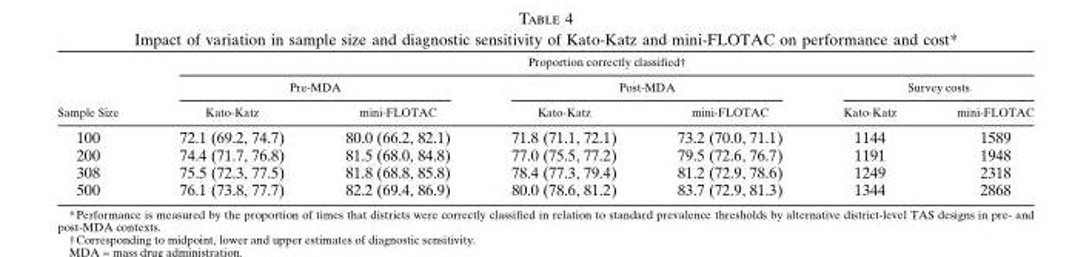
<table><thead><tr><td rowspan="3">Sample Size</td><td colspan="6">Proportion correctly classified†</td></tr><tr><td colspan="2">Pre-MDA</td><td colspan="2">Post-MDA</td><td colspan="2">Survey costs</td></tr><tr><td>Kato-Katz</td><td>mini-FLOTAC</td><td>Kato-Katz</td><td>mini-FLOTAC</td><td>Kato-Katz</td><td>mini-FLOTAC</td></tr></thead><tbody><tr><td>100</td><td>72.1 (69.2, 74.7)</td><td>80.0 (66.2, 82.1)</td><td>71.8 (71.1, 72.1)</td><td>73.2 (70.0, 71.1)</td><td>1144</td><td>1589</td></tr><tr><td>200</td><td>74.4 (71.7, 76.8)</td><td>81.5 (68.0, 84.8)</td><td>77.0 (75.5, 77.2)</td><td>79.5 (72.6, 76.7)</td><td>1191</td><td>1948</td></tr><tr><td>308</td><td>75.5 (72.3, 77.5)</td><td>81.8 (68.8, 85.8)</td><td>78.4 (77.3, 79.4)</td><td>81.2 (72.9, 78.6)</td><td>1249</td><td>2318</td></tr><tr><td>500</td><td>76.1 (73.8, 77.7)</td><td>82.2 (69.4, 86.9)</td><td>80.0 (78.6, 81.2)</td><td>83.7 (72.9, 81.3)</td><td>1344</td><td>2868</td></tr></tbody></table>